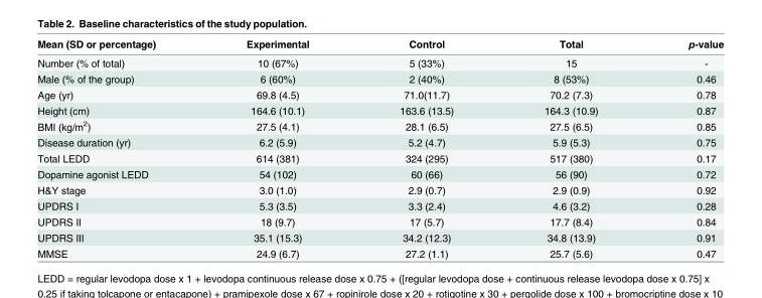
<table><thead><tr><td>Mean (SD or percentage)</td><td>Experimental</td><td>Control</td><td>Total</td><td>p-value</td></tr></thead><tbody><tr><td>Number (% of total)</td><td>10 (67%)</td><td>5 (33%)</td><td>15</td><td>-</td></tr><tr><td>Male (% of the group)</td><td>6 (60%)</td><td>2 (40%)</td><td>8 (53%)</td><td>0.46</td></tr><tr><td>Age (yr)</td><td>69.8 (4.5)</td><td>71.0(11.7)</td><td>70.2 (7.3)</td><td>0.78</td></tr><tr><td>Height (cm)</td><td>164.6 (10.1)</td><td>163.6 (13.5)</td><td>164.3 (10.9)</td><td>0.87</td></tr><tr><td>BMI (kg/m<sup>2</sup>)</td><td>27.5 (4.1)</td><td>28.1 (6.5)</td><td>27.5 (6.5)</td><td>0.85</td></tr><tr><td>Disease duration (yr)</td><td>6.2 (5.9)</td><td>5.2 (4.7)</td><td>5.9 (5.3)</td><td>0.75</td></tr><tr><td>Total LEDD</td><td>614 (381)</td><td>324 (295)</td><td>517 (380)</td><td>0.17</td></tr><tr><td>Dopamine agonist LEDD</td><td>54 (102)</td><td>60 (66)</td><td>56 (90)</td><td>0.72</td></tr><tr><td>H&amp;Y stage</td><td>3.0 (1.0)</td><td>2.9 (0.7)</td><td>2.9 (0.9)</td><td>0.92</td></tr><tr><td>UPDRS I</td><td>5.3 (3.5)</td><td>3.3 (2.4)</td><td>4.6 (3.2)</td><td>0.28</td></tr><tr><td>UPDRS II</td><td>18 (9.7)</td><td>17 (5.7)</td><td>17.7 (8.4)</td><td>0.84</td></tr><tr><td>UPDRS III</td><td>35.1 (15.3)</td><td>34.2 (12.3)</td><td>34.8 (13.9)</td><td>0.91</td></tr><tr><td>MMSE</td><td>24.9 (6.7)</td><td>27.2 (1.1)</td><td>25.7 (5.6)</td><td>0.47</td></tr></tbody></table>